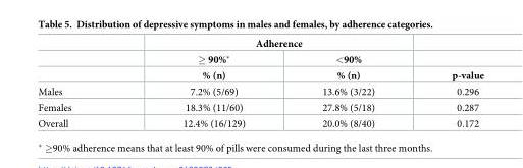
<table><thead><tr><td rowspan="3"></td><td colspan="2">Adherence</td><td rowspan="3">p-value</td></tr><tr><td rowspan="2">≥ 90%* % (n)</td><td rowspan="2">&lt;90% % (n)</td></tr><tr></tr></thead><tbody><tr><td>Males</td><td>7.2% (5/69)</td><td>13.6% (3/22)</td><td>0.296</td></tr><tr><td>Females</td><td>18.3% (11/60)</td><td>27.8% (5/18)</td><td>0.287</td></tr><tr><td>Overall</td><td>12.4% (16/129)</td><td>20.0% (8/40)</td><td>0.172</td></tr></tbody></table>